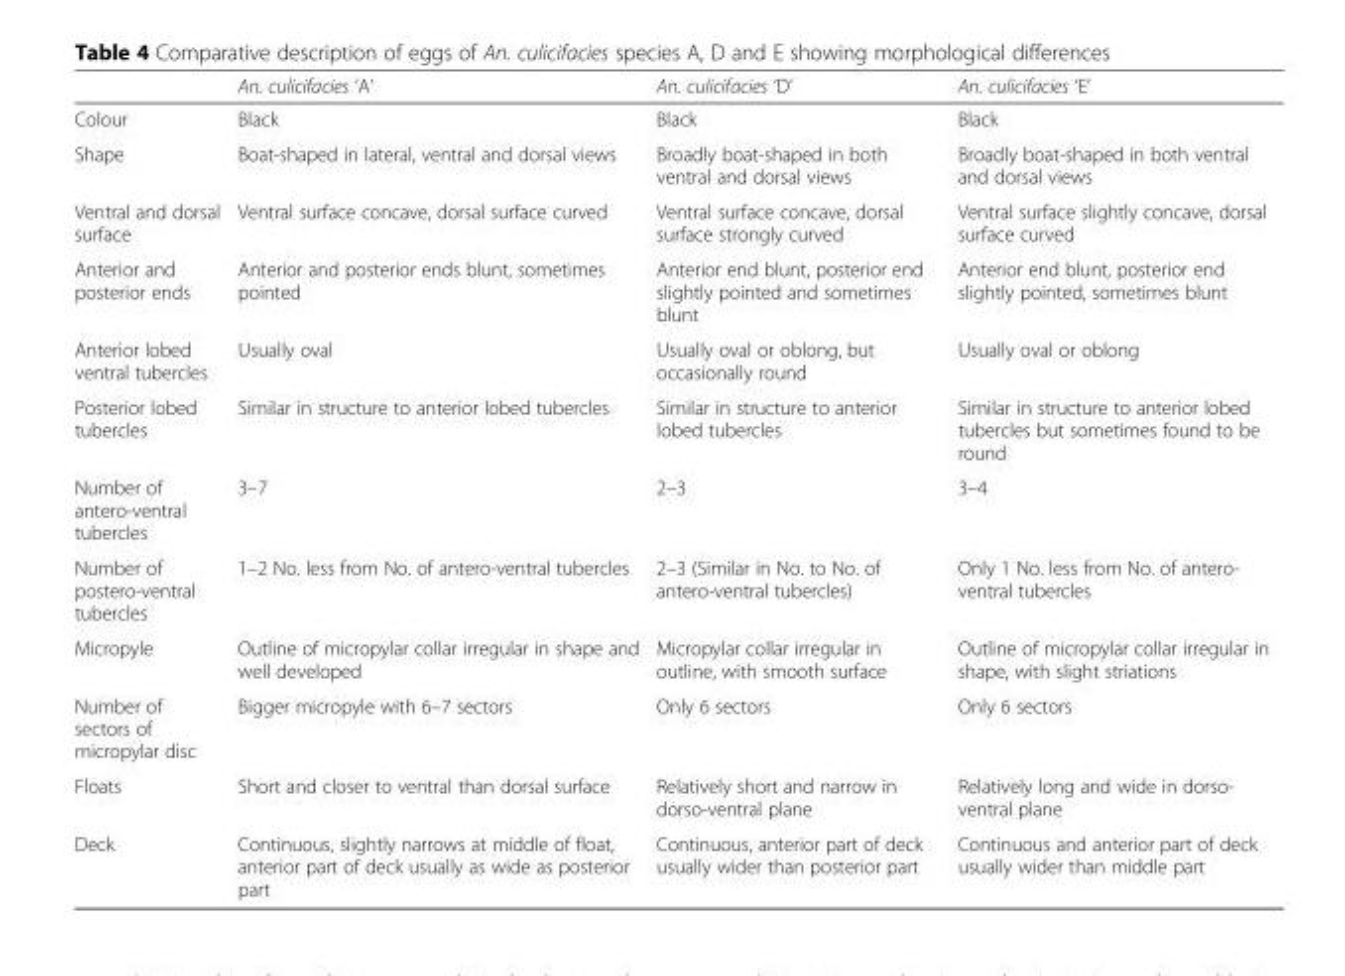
<table><thead><tr><td></td><td>An. culicifacies ‘A’</td><td>An. culicifacies ‘D’</td><td>An. culicifacies ‘E’</td></tr></thead><tbody><tr><td>Colour</td><td>Black</td><td>Black</td><td>Black</td></tr><tr><td>Shape</td><td>Boat-shaped in lateral, ventral and dorsal views</td><td>Broadly boat-shaped in both ventral and dorsal views</td><td>Broadly boat-shaped in both ventral and dorsal views</td></tr><tr><td>Ventral and dorsal surface</td><td>Ventral surface concave, dorsal surface curved</td><td>Ventral surface concave, dorsal surface strongly curved</td><td>Ventral surface slightly concave, dorsal surface curved</td></tr><tr><td>Anterior and posterior ends</td><td>Anterior and posterior ends blunt, sometimes pointed</td><td>Anterior end blunt, posterior end slightly pointed and sometimes blunt</td><td>Anterior end blunt, posterior end slightly pointed, sometimes blunt</td></tr><tr><td>Anterior lobed ventral tubercles</td><td>Usually oval</td><td>Usually oval or oblong, but occasionally round</td><td>Usually oval or oblong</td></tr><tr><td>Posterior lobed tubercles</td><td>Similar in structure to anterior lobed tubercles</td><td>Similar in structure to anterior lobed tubercles</td><td>Similar in structure to anterior lobed tubercles but sometimes found to be round</td></tr><tr><td>Number of antero-ventral tubercles</td><td>3–7</td><td>2–3</td><td>3–4</td></tr><tr><td>Number of postero-ventral tubercles</td><td>1–2 No. less from No. of antero-ventral tubercles</td><td>2–3 (Similar in No. to No. of antero-ventral tubercles)</td><td>Only 1 No. less from No. of antero- ventral tubercles</td></tr><tr><td>Micropyle</td><td>Outline of micropylar collar irregular in shape and well developed</td><td>Micropylar collar irregular in outline, with smooth surface</td><td>Outline of micropylar collar irregular in shape, with slight striations</td></tr><tr><td>Number of sectors of micropylar disc</td><td>Bigger micropyle with 6–7 sectors</td><td>Only 6 sectors</td><td>Only 6 sectors</td></tr><tr><td>Floats</td><td>Short and closer to ventral than dorsal surface</td><td>Relatively short and narrow in dorso-ventral plane</td><td>Relatively long and wide in dorso- ventral plane</td></tr><tr><td>Deck</td><td>Continuous, slightly narrows at middle of float, anterior part of deck usually as wide as posterior part</td><td>Continuous, anterior part of deck usually wider than posterior part</td><td>Continuous and anterior part of deck usually wider than middle part</td></tr></tbody></table>